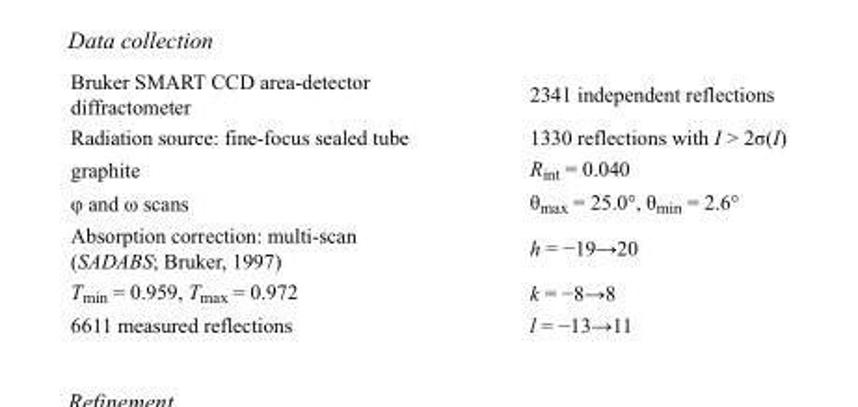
<table><tbody><tr><td>Bruker SMART CCD area-detector diffractometer</td><td>2341 independent reflections</td></tr><tr><td>Radiation source: fine-focus sealed tube</td><td>1330 reflections with I &gt; 2σ(I)</td></tr><tr><td>graphite</td><td>R<sub>int</sub> = 0.040</td></tr><tr><td>φ and ω scans</td><td>θ<sub>max</sub> = 25.0°, θ<sub>min</sub> = 2.6°</td></tr><tr><td>Absorption correction: multi-scan (SADABS; Bruker, 1997)</td><td>h = −19→20</td></tr><tr><td>T<sub>min</sub> = 0.959, T<sub>max</sub> = 0.972</td><td>k = −8→8</td></tr><tr><td>6611 measured reflections</td><td>l = −13→11</td></tr></tbody></table>